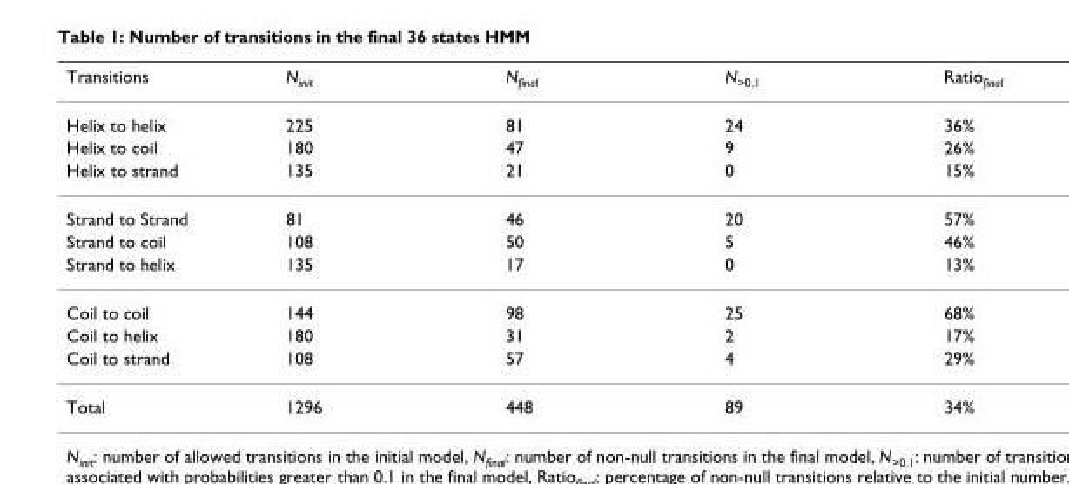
<table><thead><tr><td>Transitions</td><td>Ninit</td><td>Nfinal</td><td>N&gt;0.1</td><td>Ratiofinal</td></tr></thead><tbody><tr><td>Helix to helix</td><td>225</td><td>81</td><td>24</td><td>36%</td></tr><tr><td>Helix to coil</td><td>180</td><td>47</td><td>9</td><td>26%</td></tr><tr><td>Helix to strand</td><td>135</td><td>21</td><td>0</td><td>15%</td></tr><tr><td>Strand to Strand</td><td>81</td><td>46</td><td>20</td><td>57%</td></tr><tr><td>Strand to coil</td><td>108</td><td>50</td><td>5</td><td>46%</td></tr><tr><td>Strand to helix</td><td>135</td><td>17</td><td>0</td><td>13%</td></tr><tr><td>Coil to coil</td><td>144</td><td>98</td><td>25</td><td>68%</td></tr><tr><td>Coil to helix</td><td>180</td><td>31</td><td>2</td><td>17%</td></tr><tr><td>Coil to strand</td><td>108</td><td>57</td><td>4</td><td>29%</td></tr><tr><td>Total</td><td>1296</td><td>448</td><td>89</td><td>34%</td></tr></tbody></table>